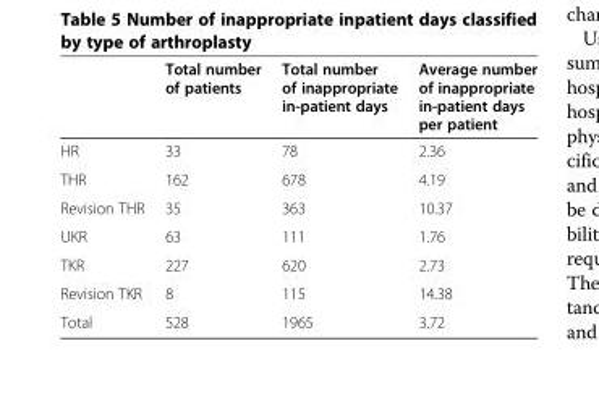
<table><thead><tr><td></td><td>Total number of patients</td><td>Total number of inappropriate in-patient days</td><td>Average number of inappropriate in-patient days per patient</td></tr></thead><tbody><tr><td>HR</td><td>33</td><td>78</td><td>2.36</td></tr><tr><td>THR</td><td>162</td><td>678</td><td>4.19</td></tr><tr><td>Revision THR</td><td>35</td><td>363</td><td>10.37</td></tr><tr><td>UKR</td><td>63</td><td>111</td><td>1.76</td></tr><tr><td>TKR</td><td>227</td><td>620</td><td>2.73</td></tr><tr><td>Revision TKR</td><td>8</td><td>115</td><td>14.38</td></tr><tr><td>Total</td><td>528</td><td>1965</td><td>3.72</td></tr></tbody></table>